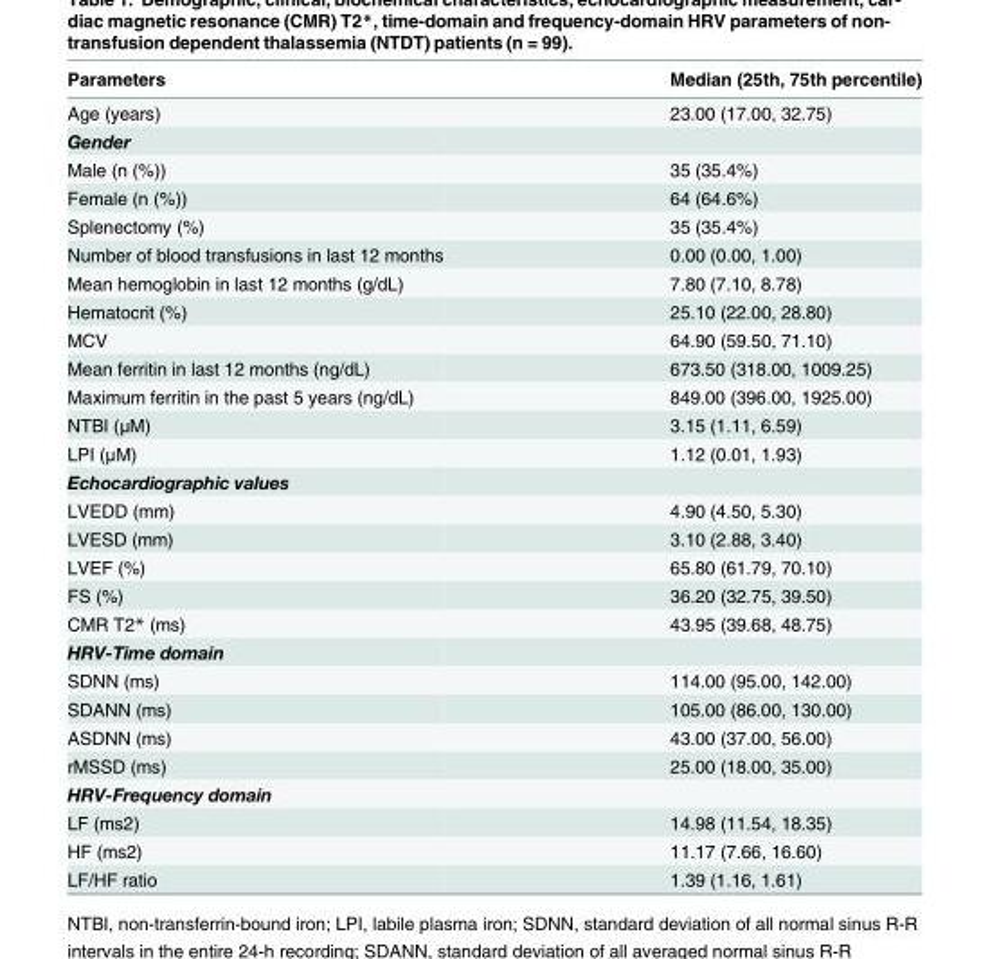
<table><thead><tr><td>Parameters</td><td>Median (25th, 75th percentile)</td></tr></thead><tbody><tr><td>Age (years)</td><td>23.00 (17.00, 32.75)</td></tr><tr><td colspan="2">Gender</td></tr><tr><td>Male (n (%))</td><td>35 (35.4%)</td></tr><tr><td>Female (n (%))</td><td>64 (64.6%)</td></tr><tr><td>Splenectomy (%)</td><td>35 (35.4%)</td></tr><tr><td>Number of blood transfusions in last 12 months</td><td>0.00 (0.00, 1.00)</td></tr><tr><td>Mean hemoglobin in last 12 months (g/dL)</td><td>7.80 (7.10, 8.78)</td></tr><tr><td>Hematocrit (%)</td><td>25.10 (22.00, 28.80)</td></tr><tr><td>MCV</td><td>64.90 (59.50, 71.10)</td></tr><tr><td>Mean ferritin in last 12 months (ng/dL)</td><td>673.50 (318.00, 1009.25)</td></tr><tr><td>Maximum ferritin in the past 5 years (ng/dL)</td><td>849.00 (396.00, 1925.00)</td></tr><tr><td>NTBI (μM)</td><td>3.15 (1.11, 6.59)</td></tr><tr><td>LPI (μM)</td><td>1.12 (0.01, 1.93)</td></tr><tr><td colspan="2">Echocardiographic values</td></tr><tr><td>LVEDD (mm)</td><td>4.90 (4.50, 5.30)</td></tr><tr><td>LVESD (mm)</td><td>3.10 (2.88, 3.40)</td></tr><tr><td>LVEF (%)</td><td>65.80 (61.79, 70.10)</td></tr><tr><td>FS (%)</td><td>36.20 (32.75, 39.50)</td></tr><tr><td>CMR T2* (ms)</td><td>43.95 (39.68, 48.75)</td></tr><tr><td colspan="2">HRV-Time domain</td></tr><tr><td>SDNN (ms)</td><td>114.00 (95.00, 142.00)</td></tr><tr><td>SDANN (ms)</td><td>105.00 (86.00, 130.00)</td></tr><tr><td>ASDNN (ms)</td><td>43.00 (37.00, 56.00)</td></tr><tr><td>rMSSD (ms)</td><td>25.00 (18.00, 35.00)</td></tr><tr><td colspan="2">HRV-Frequency domain</td></tr><tr><td>LF (ms2)</td><td>14.98 (11.54, 18.35)</td></tr><tr><td>HF (ms2)</td><td>11.17 (7.66, 16.60)</td></tr><tr><td>LF/HF ratio</td><td>1.39 (1.16, 1.61)</td></tr></tbody></table>